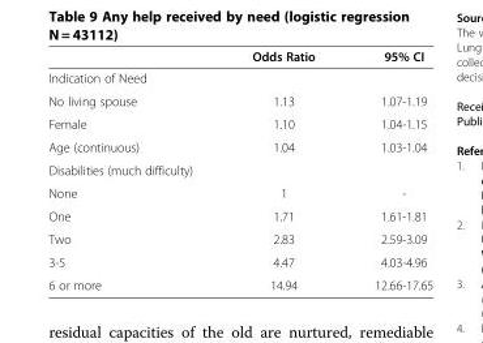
<table><thead><tr><td></td><td>Odds Ratio</td><td>95% CI</td></tr></thead><tbody><tr><td colspan="3">Indication of Need</td></tr><tr><td>No living spouse</td><td>1.13</td><td>1.07-1.19</td></tr><tr><td>Female</td><td>1.10</td><td>1.04-1.15</td></tr><tr><td>Age (continuous)</td><td>1.04</td><td>1.03-1.04</td></tr><tr><td colspan="3">Disabilities (much difficulty)</td></tr><tr><td>None</td><td>1</td><td>-</td></tr><tr><td>One</td><td>1.71</td><td>1.61-1.81</td></tr><tr><td>Two</td><td>2.83</td><td>2.59-3.09</td></tr><tr><td>3-5</td><td>4.47</td><td>4.03-4.96</td></tr><tr><td>6 or more</td><td>14.94</td><td>12.66-17.65</td></tr></tbody></table>